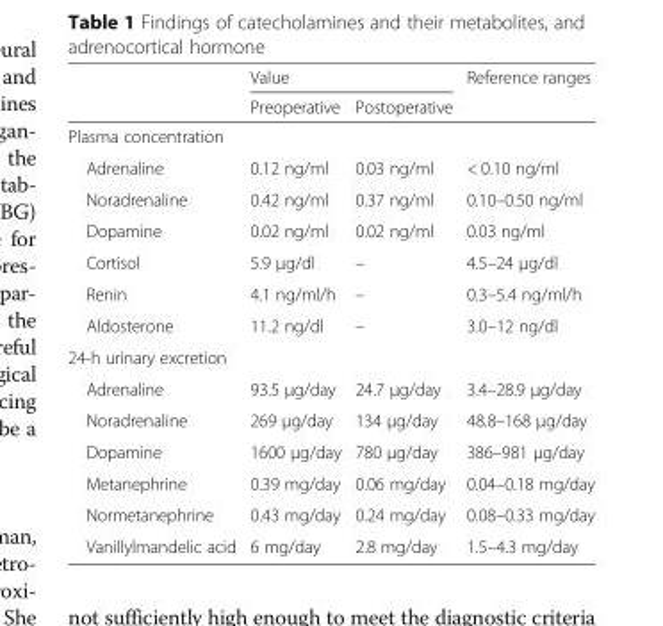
<table><thead><tr><td rowspan="2"></td><td colspan="2">Value</td><td rowspan="2">Reference ranges</td></tr><tr><td>Preoperative</td><td>Postoperative</td></tr></thead><tbody><tr><td colspan="4">Plasma concentration</td></tr><tr><td>Adrenaline</td><td>0.12 ng/ml</td><td>0.03 ng/ml</td><td>&lt; 0.10 ng/ml</td></tr><tr><td>Noradrenaline</td><td>0.42 ng/ml</td><td>0.37 ng/ml</td><td>0.10–0.50 ng/ml</td></tr><tr><td>Dopamine</td><td>0.02 ng/ml</td><td>0.02 ng/ml</td><td>0.03 ng/ml</td></tr><tr><td>Cortisol</td><td>5.9 μg/dl</td><td>–</td><td>4.5–24 μg/dl</td></tr><tr><td>Renin</td><td>4.1 ng/ml/h</td><td>–</td><td>0.3–5.4 ng/ml/h</td></tr><tr><td>Aldosterone</td><td>11.2 ng/dl</td><td>–</td><td>3.0–12 ng/dl</td></tr><tr><td colspan="4">24-h urinary excretion</td></tr><tr><td>Adrenaline</td><td>93.5 μg/day</td><td>24.7 μg/day</td><td>3.4–28.9 μg/day</td></tr><tr><td>Noradrenaline</td><td>269 μg/day</td><td>134 μg/day</td><td>48.8–168 μg/day</td></tr><tr><td>Dopamine</td><td>1600 μg/day</td><td>780 μg/day</td><td>386–981 μg/day</td></tr><tr><td>Metanephrine</td><td>0.39 mg/day</td><td>0.06 mg/day</td><td>0.04–0.18 mg/day</td></tr><tr><td>Normetanephrine</td><td>0.43 mg/day</td><td>0.24 mg/day</td><td>0.08–0.33 mg/day</td></tr><tr><td>Vanillylmandelic acid</td><td>6 mg/day</td><td>2.8 mg/day</td><td>1.5–4.3 mg/day</td></tr></tbody></table>